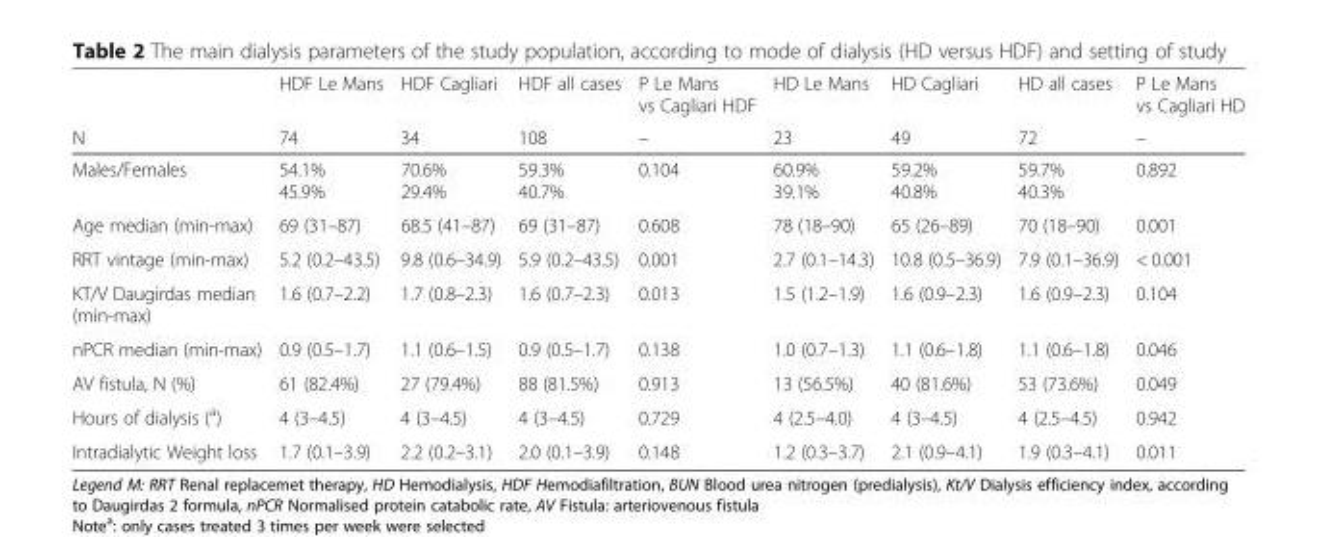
<table><thead><tr><td rowspan="2">N</td><td rowspan="2">HDF Le Mans 74</td><td rowspan="2">HDF Cagliari 34</td><td rowspan="2">HDF all cases 108</td><td rowspan="2">P Le Mans vs Cagliari HDF –</td><td rowspan="2">HD Le Mans 23</td><td rowspan="2">HD Cagliari 49</td><td rowspan="2">HD all cases 72</td><td rowspan="2">P Le Mans vs Cagliari HD –</td></tr><tr></tr></thead><tbody><tr><td>Males/Females</td><td>54.1% 45.9%</td><td>70.6% 29.4%</td><td>59.3% 40.7%</td><td>0.104</td><td>60.9% 39.1%</td><td>59.2% 40.8%</td><td>59.7% 40.3%</td><td>0.892</td></tr><tr><td>Age median (min-max)</td><td>69 (31–87)</td><td>68.5 (41–87)</td><td>69 (31–87)</td><td>0.608</td><td>78 (18–90)</td><td>65 (26–89)</td><td>70 (18–90)</td><td>0.001</td></tr><tr><td>RRT vintage (min-max)</td><td>5.2 (0.2–43.5)</td><td>9.8 (0.6–34.9)</td><td>5.9 (0.2–43.5)</td><td>0.001</td><td>2.7 (0.1–14.3)</td><td>10.8 (0.5–36.9)</td><td>7.9 (0.1–36.9)</td><td>&lt; 0.001</td></tr><tr><td>KT/V Daugirdas median (min-max)</td><td>1.6 (0.7–2.2)</td><td>1.7 (0.8–2.3)</td><td>1.6 (0.7–2.3)</td><td>0.013</td><td>1.5 (1.2–1.9)</td><td>1.6 (0.9–2.3)</td><td>1.6 (0.9–2.3)</td><td>0.104</td></tr><tr><td>nPCR median (min-max)</td><td>0.9 (0.5–1.7)</td><td>1.1 (0.6–1.5)</td><td>0.9 (0.5–1.7)</td><td>0.138</td><td>1.0 (0.7–1.3)</td><td>1.1 (0.6–1.8)</td><td>1.1 (0.6–1.8)</td><td>0.046</td></tr><tr><td>AV fistula, N (%)</td><td>61 (82.4%)</td><td>27 (79.4%)</td><td>88 (81.5%)</td><td>0.913</td><td>13 (56.5%)</td><td>40 (81.6%)</td><td>53 (73.6%)</td><td>0.049</td></tr><tr><td>Hours of dialysis (<sup>a</sup>)</td><td>4 (3–4.5)</td><td>4 (3–4.5)</td><td>4 (3–4.5)</td><td>0.729</td><td>4 (2.5–4.0)</td><td>4 (3–4.5)</td><td>4 (2.5–4.5)</td><td>0.942</td></tr><tr><td>Intradialytic Weight loss</td><td>1.7 (0.1–3.9)</td><td>2.2 (0.2–3.1)</td><td>2.0 (0.1–3.9)</td><td>0.148</td><td>1.2 (0.3–3.7)</td><td>2.1 (0.9–4.1)</td><td>1.9 (0.3–4.1)</td><td>0.011</td></tr></tbody></table>